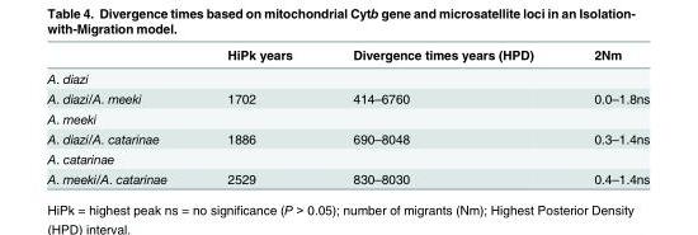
<table><thead><tr><td></td><td>HiPk years</td><td>Divergence times years (HPD)</td><td>2Nm</td></tr></thead><tbody><tr><td colspan="4">A. diazi</td></tr><tr><td>A. diazi/A. meeki</td><td>1702</td><td>414–6760</td><td>0.0–1.8ns</td></tr><tr><td colspan="4">A. meeki</td></tr><tr><td>A. diazi/A. catarinae</td><td>1886</td><td>690–8048</td><td>0.3–1.4ns</td></tr><tr><td colspan="4">A. catarinae</td></tr><tr><td>A. meeki/A. catarinae</td><td>2529</td><td>830–8030</td><td>0.4–1.4ns</td></tr></tbody></table>